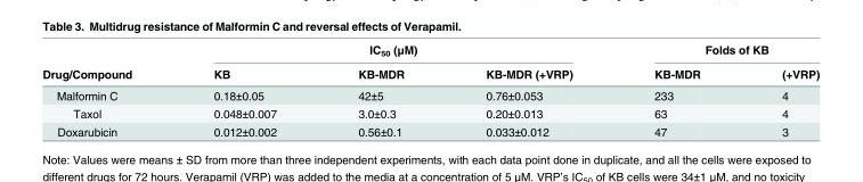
<table><thead><tr><td rowspan="2">Drug/Compound</td><td colspan="3">IC<sub>50</sub> (μM)</td><td colspan="2">Folds of KB</td></tr><tr><td>KB</td><td>KB-MDR</td><td>KB-MDR (+VRP)</td><td>KB-MDR</td><td>(+VRP)</td></tr></thead><tbody><tr><td>Malformin C</td><td>0.18±0.05</td><td>42±5</td><td>0.76±0.053</td><td>233</td><td>4</td></tr><tr><td>Taxol</td><td>0.048±0.007</td><td>3.0±0.3</td><td>0.20±0.013</td><td>63</td><td>4</td></tr><tr><td>Doxarubicin</td><td>0.012±0.002</td><td>0.56±0.1</td><td>0.033±0.012</td><td>47</td><td>3</td></tr></tbody></table>